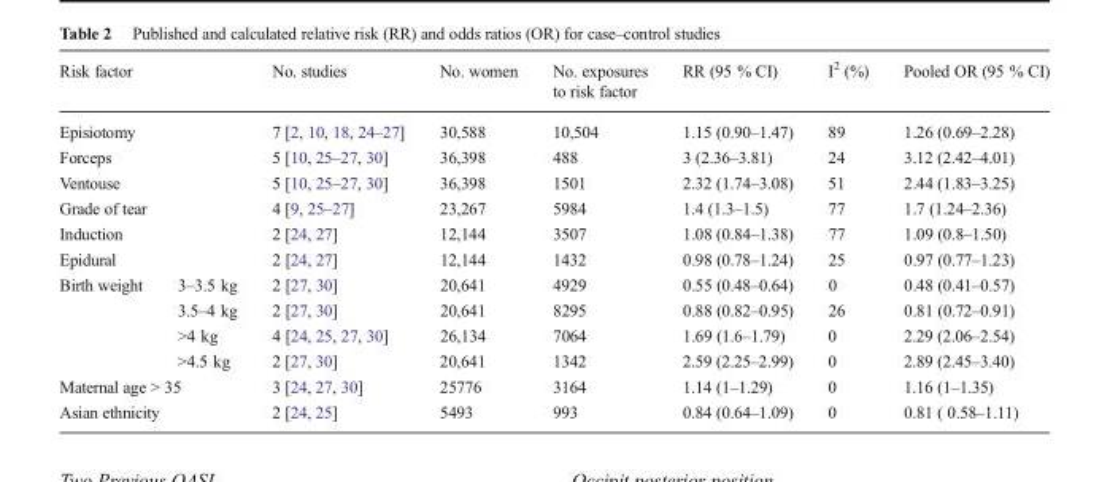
<table><thead><tr><td colspan="2">Risk factor</td><td>No. studies</td><td>No. women</td><td>No. exposures to risk factor</td><td>RR (95 % CI)</td><td>I<sup>2</sup> (%)</td><td>Pooled OR (95 % CI)</td></tr></thead><tbody><tr><td colspan="2">Episiotomy</td><td>7 [2, 10, 18, 24–27]</td><td>30,588</td><td>10,504</td><td>1.15 (0.90–1.47)</td><td>89</td><td>1.26 (0.69–2.28)</td></tr><tr><td colspan="2">Forceps</td><td>5 [10, 25–27, 30]</td><td>36,398</td><td>488</td><td>3 (2.36–3.81)</td><td>24</td><td>3.12 (2.42–4.01)</td></tr><tr><td colspan="2">Ventouse</td><td>5 [10, 25–27, 30]</td><td>36,398</td><td>1501</td><td>2.32 (1.74–3.08)</td><td>51</td><td>2.44 (1.83–3.25)</td></tr><tr><td colspan="2">Grade of tear</td><td>4 [9, 25–27]</td><td>23,267</td><td>5984</td><td>1.4 (1.3–1.5)</td><td>77</td><td>1.7 (1.24–2.36)</td></tr><tr><td colspan="2">Induction</td><td>2 [24, 27]</td><td>12,144</td><td>3507</td><td>1.08 (0.84–1.38)</td><td>77</td><td>1.09 (0.8–1.50)</td></tr><tr><td colspan="2">Epidural</td><td>2 [24, 27]</td><td>12,144</td><td>1432</td><td>0.98 (0.78–1.24)</td><td>25</td><td>0.97 (0.77–1.23)</td></tr><tr><td rowspan="4">Birth weight</td><td>3–3.5 kg</td><td>2 [27, 30]</td><td>20,641</td><td>4929</td><td>0.55 (0.48–0.64)</td><td>0</td><td>0.48 (0.41–0.57)</td></tr><tr><td>3.5–4 kg</td><td>2 [27, 30]</td><td>20,641</td><td>8295</td><td>0.88 (0.82–0.95)</td><td>26</td><td>0.81 (0.72–0.91)</td></tr><tr><td>&gt;4 kg</td><td>4 [24, 25, 27, 30]</td><td>26,134</td><td>7064</td><td>1.69 (1.6–1.79)</td><td>0</td><td>2.29 (2.06–2.54)</td></tr><tr><td>&gt;4.5 kg</td><td>2 [27, 30]</td><td>20,641</td><td>1342</td><td>2.59 (2.25–2.99)</td><td>0</td><td>2.89 (2.45–3.40)</td></tr><tr><td colspan="2">Maternal age &gt; 35</td><td>3 [24, 27, 30]</td><td>25776</td><td>3164</td><td>1.14 (1–1.29)</td><td>0</td><td>1.16 (1–1.35)</td></tr><tr><td colspan="2">Asian ethnicity</td><td>2 [24, 25]</td><td>5493</td><td>993</td><td>0.84 (0.64–1.09)</td><td>0</td><td>0.81 ( 0.58–1.11)</td></tr></tbody></table>